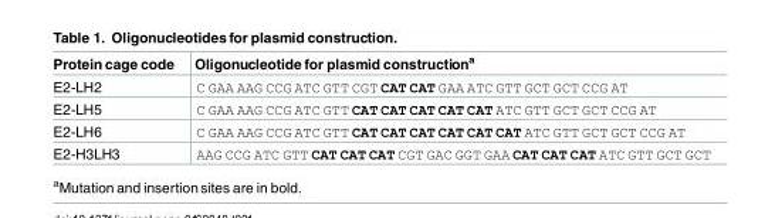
<table><thead><tr><td>Protein cage code</td><td>Oligonucleotide for plasmid construction<sup>a</sup></td></tr></thead><tbody><tr><td>E2-LH2</td><td>C GAA AAG CCG ATC GTT CGT CAT CAT GAA ATC GTT GCT GCT CCG AT</td></tr><tr><td>E2-LH5</td><td>C GAA AAG CCG ATC GTT CAT CAT CAT CAT CAT ATC GTT GCT GCT CCG AT</td></tr><tr><td>E2-LH6</td><td>C GAA AAG CCG ATC GTT CAT CAT CAT CAT CAT CAT ATC GTT GCT GCT CCG AT</td></tr><tr><td>E2-H3LH3</td><td>AAG CCG ATC GTT CAT CAT CAT CGT GAC GGT GAA CAT CAT CAT ATC GTT GCT GCT</td></tr></tbody></table>